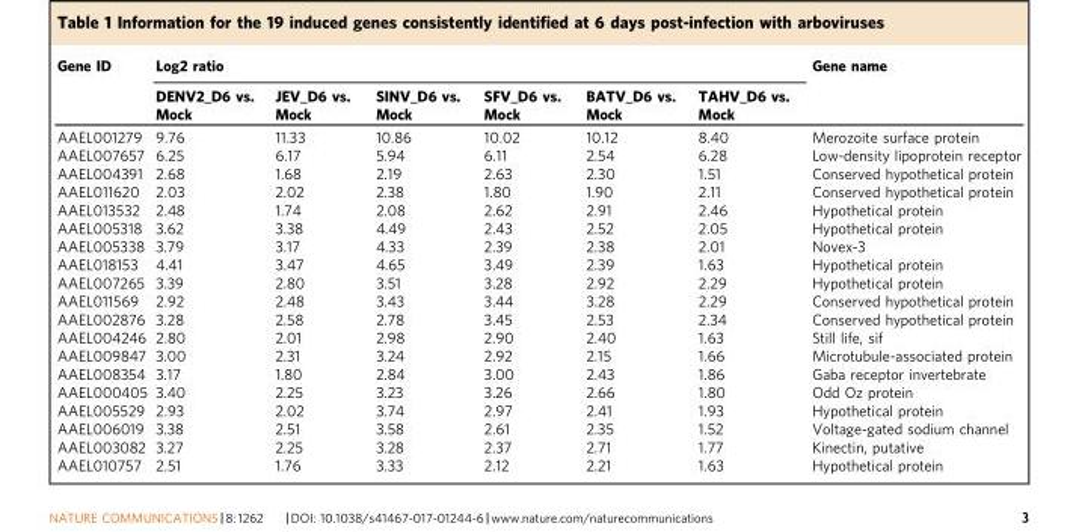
<table><thead><tr><td rowspan="2">Gene ID</td><td colspan="6">Log2 ratio</td><td rowspan="2">Gene name</td></tr><tr><td>DENV2_D6 vs. Mock</td><td>JEV_D6 vs. Mock</td><td>SINV_D6 vs. Mock</td><td>SFV_D6 vs. Mock</td><td>BATV_D6 vs. Mock</td><td>TAHV_D6 vs. Mock</td></tr></thead><tbody><tr><td>AAEL001279</td><td>9.76</td><td>11.33</td><td>10.86</td><td>10.02</td><td>10.12</td><td>8.40</td><td>Merozoite surface protein</td></tr><tr><td>AAEL007657</td><td>6.25</td><td>6.17</td><td>5.94</td><td>6.11</td><td>2.54</td><td>6.28</td><td>Low-density lipoprotein receptor</td></tr><tr><td>AAEL004391</td><td>2.68</td><td>1.68</td><td>2.19</td><td>2.63</td><td>2.30</td><td>1.51</td><td>Conserved hypothetical protein</td></tr><tr><td>AAEL011620</td><td>2.03</td><td>2.02</td><td>2.38</td><td>1.80</td><td>1.90</td><td>2.11</td><td>Conserved hypothetical protein</td></tr><tr><td>AAEL013532</td><td>2.48</td><td>1.74</td><td>2.08</td><td>2.62</td><td>2.91</td><td>2.46</td><td>Hypothetical protein</td></tr><tr><td>AAEL005318</td><td>3.62</td><td>3.38</td><td>4.49</td><td>2.43</td><td>2.52</td><td>2.05</td><td>Hypothetical protein</td></tr><tr><td>AAEL005338</td><td>3.79</td><td>3.17</td><td>4.33</td><td>2.39</td><td>2.38</td><td>2.01</td><td>Novex-3</td></tr><tr><td>AAEL018153</td><td>4.41</td><td>3.47</td><td>4.65</td><td>3.49</td><td>2.39</td><td>1.63</td><td>Hypothetical protein</td></tr><tr><td>AAEL007265</td><td>3.39</td><td>2.80</td><td>3.51</td><td>3.28</td><td>2.92</td><td>2.29</td><td>Hypothetical protein</td></tr><tr><td>AAEL011569</td><td>2.92</td><td>2.48</td><td>3.43</td><td>3.44</td><td>3.28</td><td>2.29</td><td>Conserved hypothetical protein</td></tr><tr><td>AAEL002876</td><td>3.28</td><td>2.58</td><td>2.78</td><td>3.45</td><td>2.53</td><td>2.34</td><td>Conserved hypothetical protein</td></tr><tr><td>AAEL004246</td><td>2.80</td><td>2.01</td><td>2.98</td><td>2.90</td><td>2.40</td><td>1.63</td><td>Still life, sif</td></tr><tr><td>AAEL009847</td><td>3.00</td><td>2.31</td><td>3.24</td><td>2.92</td><td>2.15</td><td>1.66</td><td>Microtubule-associated protein</td></tr><tr><td>AAEL008354</td><td>3.17</td><td>1.80</td><td>2.84</td><td>3.00</td><td>2.43</td><td>1.86</td><td>Gaba receptor invertebrate</td></tr><tr><td>AAEL000405</td><td>3.40</td><td>2.25</td><td>3.23</td><td>3.26</td><td>2.66</td><td>1.80</td><td>Odd Oz protein</td></tr><tr><td>AAEL005529</td><td>2.93</td><td>2.02</td><td>3.74</td><td>2.97</td><td>2.41</td><td>1.93</td><td>Hypothetical protein</td></tr><tr><td>AAEL006019</td><td>3.38</td><td>2.51</td><td>3.58</td><td>2.61</td><td>2.35</td><td>1.52</td><td>Voltage-gated sodium channel</td></tr><tr><td>AAEL003082</td><td>3.27</td><td>2.25</td><td>3.28</td><td>2.37</td><td>2.71</td><td>1.77</td><td>Kinectin, putative</td></tr><tr><td>AAEL010757</td><td>2.51</td><td>1.76</td><td>3.33</td><td>2.12</td><td>2.21</td><td>1.63</td><td>Hypothetical protein</td></tr></tbody></table>